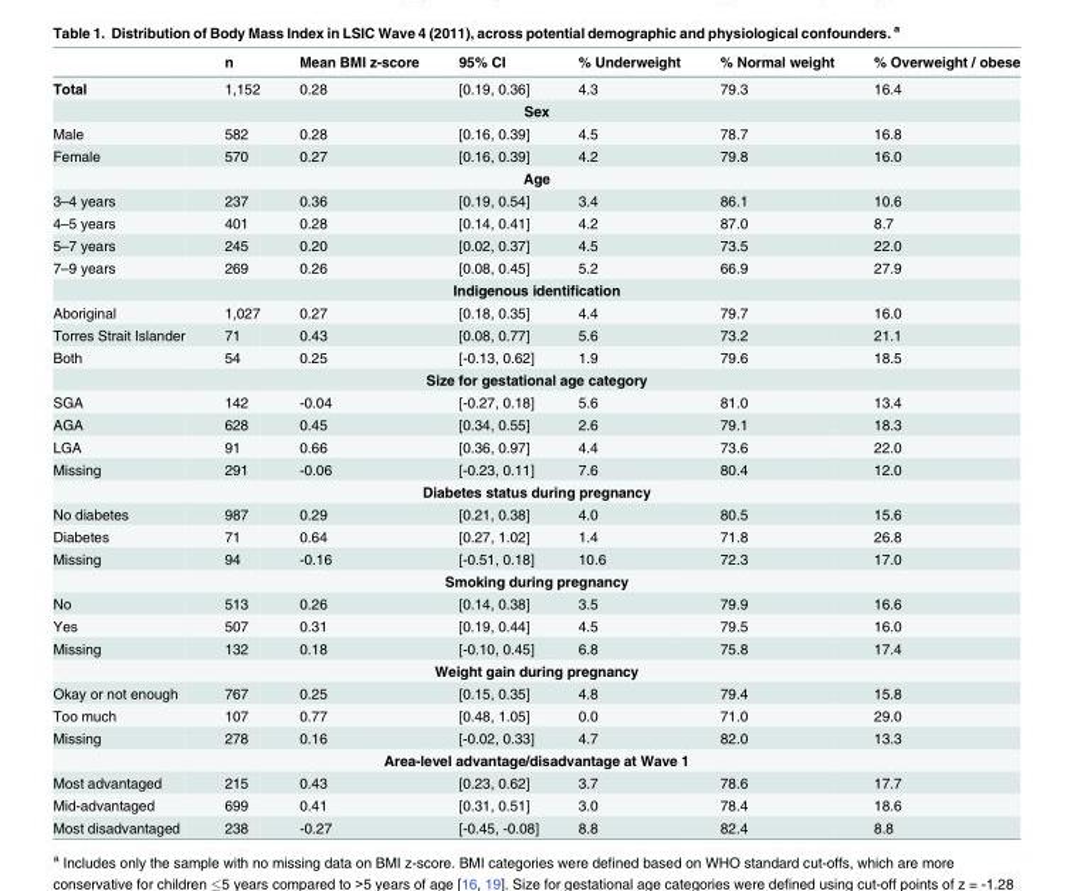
<table><thead><tr><td></td><td>n</td><td>Mean BMI z-score</td><td>95% CI</td><td>% Underweight</td><td>% Normal weight</td><td>% Overweight / obese</td></tr></thead><tbody><tr><td>Total</td><td>1,152</td><td>0.28</td><td>[0.19, 0.36]</td><td>4.3</td><td>79.3</td><td>16.4</td></tr><tr><td colspan="7">Sex</td></tr><tr><td>Male</td><td>582</td><td>0.28</td><td>[0.16, 0.39]</td><td>4.5</td><td>78.7</td><td>16.8</td></tr><tr><td>Female</td><td>570</td><td>0.27</td><td>[0.16, 0.39]</td><td>4.2</td><td>79.8</td><td>16.0</td></tr><tr><td colspan="7">Age</td></tr><tr><td>3–4 years</td><td>237</td><td>0.36</td><td>[0.19, 0.54]</td><td>3.4</td><td>86.1</td><td>10.6</td></tr><tr><td>4–5 years</td><td>401</td><td>0.28</td><td>[0.14, 0.41]</td><td>4.2</td><td>87.0</td><td>8.7</td></tr><tr><td>5–7 years</td><td>245</td><td>0.20</td><td>[0.02, 0.37]</td><td>4.5</td><td>73.5</td><td>22.0</td></tr><tr><td>7–9 years</td><td>269</td><td>0.26</td><td>[0.08, 0.45]</td><td>5.2</td><td>66.9</td><td>27.9</td></tr><tr><td colspan="7">Indigenous identification</td></tr><tr><td>Aboriginal</td><td>1,027</td><td>0.27</td><td>[0.18, 0.35]</td><td>4.4</td><td>79.7</td><td>16.0</td></tr><tr><td>Torres Strait Islander</td><td>71</td><td>0.43</td><td>[0.08, 0.77]</td><td>5.6</td><td>73.2</td><td>21.1</td></tr><tr><td>Both</td><td>54</td><td>0.25</td><td>[-0.13, 0.62]</td><td>1.9</td><td>79.6</td><td>18.5</td></tr><tr><td colspan="7">Size for gestational age category</td></tr><tr><td>SGA</td><td>142</td><td>-0.04</td><td>[-0.27, 0.18]</td><td>5.6</td><td>81.0</td><td>13.4</td></tr><tr><td>AGA</td><td>628</td><td>0.45</td><td>[0.34, 0.55]</td><td>2.6</td><td>79.1</td><td>18.3</td></tr><tr><td>LGA</td><td>91</td><td>0.66</td><td>[0.36, 0.97]</td><td>4.4</td><td>73.6</td><td>22.0</td></tr><tr><td>Missing</td><td>291</td><td>-0.06</td><td>[-0.23, 0.11]</td><td>7.6</td><td>80.4</td><td>12.0</td></tr><tr><td colspan="7">Diabetes status during pregnancy</td></tr><tr><td>No diabetes</td><td>987</td><td>0.29</td><td>[0.21, 0.38]</td><td>4.0</td><td>80.5</td><td>15.6</td></tr><tr><td>Diabetes</td><td>71</td><td>0.64</td><td>[0.27, 1.02]</td><td>1.4</td><td>71.8</td><td>26.8</td></tr><tr><td>Missing</td><td>94</td><td>-0.16</td><td>[-0.51, 0.18]</td><td>10.6</td><td>72.3</td><td>17.0</td></tr><tr><td colspan="7">Smoking during pregnancy</td></tr><tr><td>No</td><td>513</td><td>0.26</td><td>[0.14, 0.38]</td><td>3.5</td><td>79.9</td><td>16.6</td></tr><tr><td>Yes</td><td>507</td><td>0.31</td><td>[0.19, 0.44]</td><td>4.5</td><td>79.5</td><td>16.0</td></tr><tr><td>Missing</td><td>132</td><td>0.18</td><td>[-0.10, 0.45]</td><td>6.8</td><td>75.8</td><td>17.4</td></tr><tr><td colspan="7">Weight gain during pregnancy</td></tr><tr><td>Okay or not enough</td><td>767</td><td>0.25</td><td>[0.15, 0.35]</td><td>4.8</td><td>79.4</td><td>15.8</td></tr><tr><td>Too much</td><td>107</td><td>0.77</td><td>[0.48, 1.05]</td><td>0.0</td><td>71.0</td><td>29.0</td></tr><tr><td>Missing</td><td>278</td><td>0.16</td><td>[-0.02, 0.33]</td><td>4.7</td><td>82.0</td><td>13.3</td></tr><tr><td colspan="7">Area-level advantage/disadvantage at Wave 1</td></tr><tr><td>Most advantaged</td><td>215</td><td>0.43</td><td>[0.23, 0.62]</td><td>3.7</td><td>78.6</td><td>17.7</td></tr><tr><td>Mid-advantaged</td><td>699</td><td>0.41</td><td>[0.31, 0.51]</td><td>3.0</td><td>78.4</td><td>18.6</td></tr><tr><td>Most disadvantaged</td><td>238</td><td>-0.27</td><td>[-0.45, -0.08]</td><td>8.8</td><td>82.4</td><td>8.8</td></tr></tbody></table>